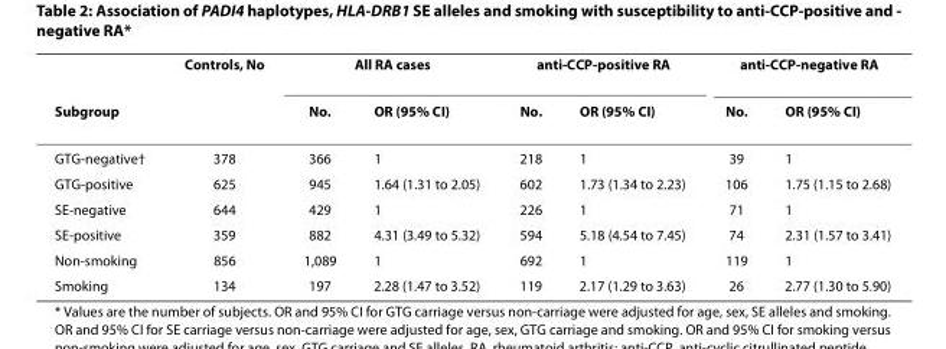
<table><thead><tr><td rowspan="2">Subgroup</td><td rowspan="2">Controls, No</td><td colspan="2">All RA cases</td><td colspan="2">anti-CCP-positive RA</td><td colspan="2">anti-CCP-negative RA</td></tr><tr><td>No.</td><td>OR (95% CI)</td><td>No.</td><td>OR (95% CI)</td><td>No.</td><td>OR (95% CI)</td></tr></thead><tbody><tr><td>GTG-negative†</td><td>378</td><td>366</td><td>1</td><td>218</td><td>1</td><td>39</td><td>1</td></tr><tr><td>GTG-positive</td><td>625</td><td>945</td><td>1.64 (1.31 to 2.05)</td><td>602</td><td>1.73 (1.34 to 2.23)</td><td>106</td><td>1.75 (1.15 to 2.68)</td></tr><tr><td>SE-negative</td><td>644</td><td>429</td><td>1</td><td>226</td><td>1</td><td>71</td><td>1</td></tr><tr><td>SE-positive</td><td>359</td><td>882</td><td>4.31 (3.49 to 5.32)</td><td>594</td><td>5.18 (4.54 to 7.45)</td><td>74</td><td>2.31 (1.57 to 3.41)</td></tr><tr><td>Non-smoking</td><td>856</td><td>1,089</td><td>1</td><td>692</td><td>1</td><td>119</td><td>1</td></tr><tr><td>Smoking</td><td>134</td><td>197</td><td>2.28 (1.47 to 3.52)</td><td>119</td><td>2.17 (1.29 to 3.63)</td><td>26</td><td>2.77 (1.30 to 5.90)</td></tr></tbody></table>